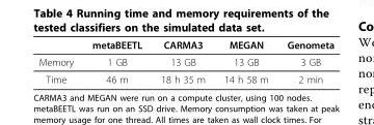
<table><thead><tr><td></td><td>metaBEETL</td><td>CARMA3</td><td>MEGAN</td><td>Genometa</td></tr></thead><tbody><tr><td>Memory</td><td>1 GB</td><td>13 GB</td><td>13 GB</td><td>3 GB</td></tr><tr><td>Time</td><td>46 m</td><td>18 h 35 m</td><td>14 h 58 m</td><td>2 min</td></tr></tbody></table>